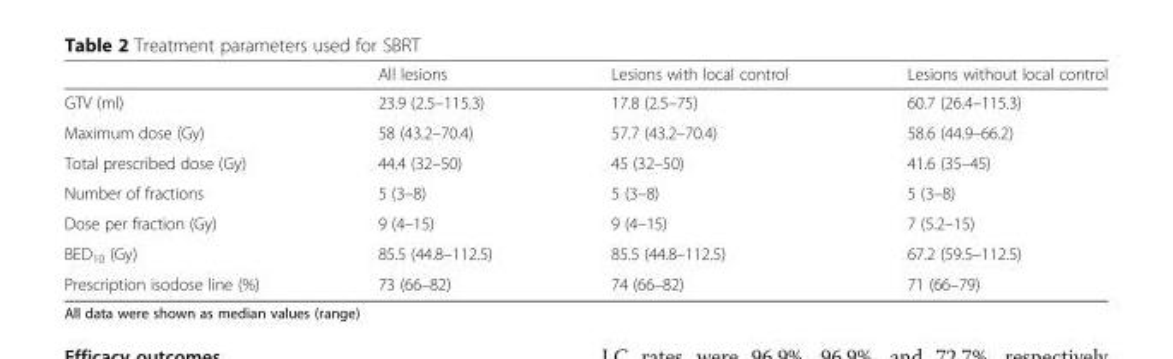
<table><thead><tr><td></td><td>All lesions</td><td>Lesions with local control</td><td>Lesions without local control</td></tr></thead><tbody><tr><td>GTV (ml)</td><td>23.9 (2.5–115.3)</td><td>17.8 (2.5–75)</td><td>60.7 (26.4–115.3)</td></tr><tr><td>Maximum dose (Gy)</td><td>58 (43.2–70.4)</td><td>57.7 (43.2–70.4)</td><td>58.6 (44.9–66.2)</td></tr><tr><td>Total prescribed dose (Gy)</td><td>44.4 (32–50)</td><td>45 (32–50)</td><td>41.6 (35–45)</td></tr><tr><td>Number of fractions</td><td>5 (3–8)</td><td>5 (3–8)</td><td>5 (3–8)</td></tr><tr><td>Dose per fraction (Gy)</td><td>9 (4–15)</td><td>9 (4–15)</td><td>7 (5.2–15)</td></tr><tr><td>BED<sub>10</sub> (Gy)</td><td>85.5 (44.8–112.5)</td><td>85.5 (44.8–112.5)</td><td>67.2 (59.5–112.5)</td></tr><tr><td>Prescription isodose line (%)</td><td>73 (66–82)</td><td>74 (66–82)</td><td>71 (66–79)</td></tr></tbody></table>